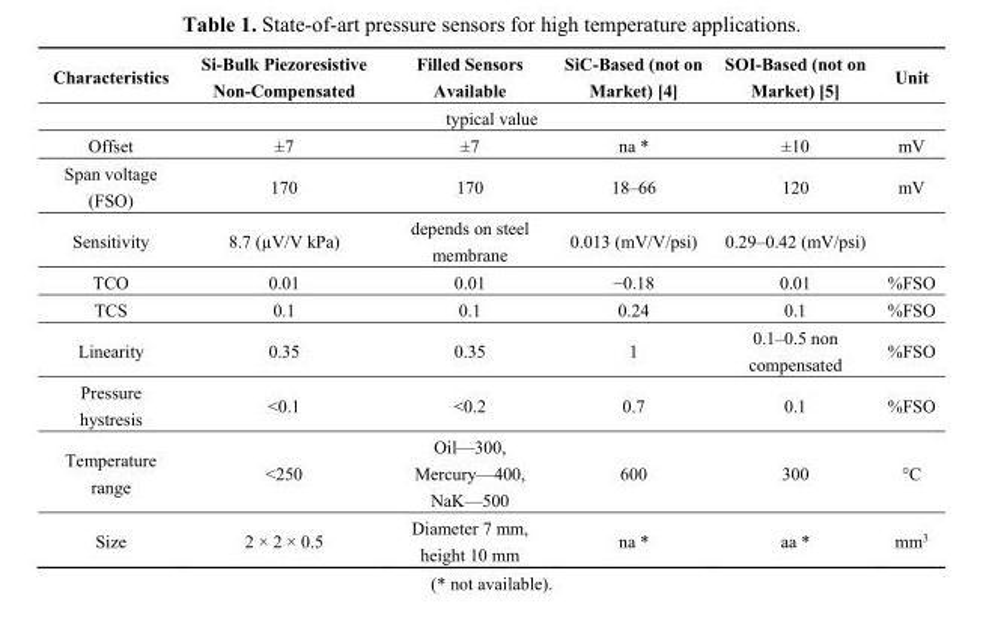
<table><thead><tr><td>Characteristics</td><td>Si-Bulk Piezoresistive Non-Compensated</td><td>Filled Sensors Available</td><td>SiC-Based (not on Market) [4]</td><td>SOI-Based (not on Market) [5]</td><td>Unit</td></tr></thead><tbody><tr><td colspan="6">typical value</td></tr><tr><td>Offset</td><td>±7</td><td>±7</td><td>na *</td><td>±10</td><td>mV</td></tr><tr><td>Span voltage (FSO)</td><td>170</td><td>170</td><td>18–66</td><td>120</td><td>mV</td></tr><tr><td>Sensitivity</td><td>8.7 (µV/V kPa)</td><td>depends on steel membrane</td><td>0.013 (mV/V/psi)</td><td>0.29–0.42 (mV/psi)</td><td></td></tr><tr><td>TCO</td><td>0.01</td><td>0.01</td><td>−0.18</td><td>0.01</td><td>%FSO</td></tr><tr><td>TCS</td><td>0.1</td><td>0.1</td><td>0.24</td><td>0.1</td><td>%FSO</td></tr><tr><td>Linearity</td><td>0.35</td><td>0.35</td><td>1</td><td>0.1–0.5 non compensated</td><td>%FSO</td></tr><tr><td>Pressure hystresis</td><td>&lt;0.1</td><td>&lt;0.2</td><td>0.7</td><td>0.1</td><td>%FSO</td></tr><tr><td>Temperature range</td><td>&lt;250</td><td>Oil—300, Mercury—400, NaK—500</td><td>600</td><td>300</td><td>°C</td></tr><tr><td>Size</td><td>2 × 2 × 0.5</td><td>Diameter 7 mm, height 10 mm</td><td>na *</td><td>aa *</td><td>mm<sup>3</sup></td></tr></tbody></table>